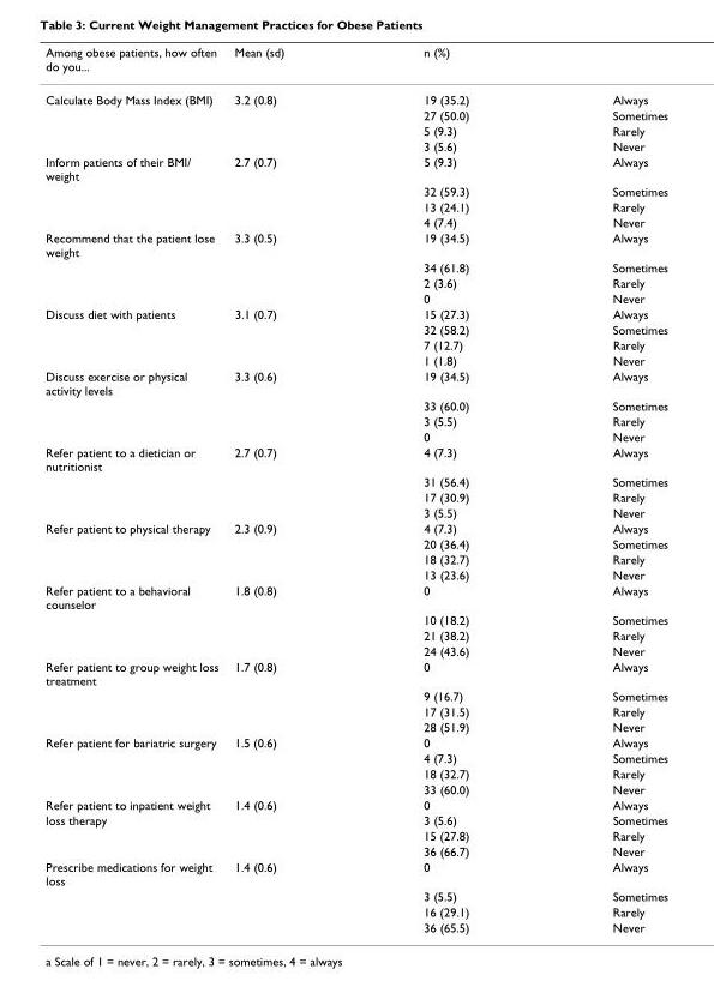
<table><thead><tr><td>Among obese patients, how often do you...</td><td>Mean (sd)</td><td>n (%)</td><td></td></tr></thead><tbody><tr><td rowspan="4">Calculate Body Mass Index (BMI)</td><td>3.2 (0.8)</td><td>19 (35.2)</td><td>Always</td></tr><tr><td></td><td>27 (50.0)</td><td>Sometimes</td></tr><tr><td></td><td>5 (9.3)</td><td>Rarely</td></tr><tr><td></td><td>3 (5.6)</td><td>Never</td></tr><tr><td rowspan="4">Inform patients of their BMI/ weight</td><td>2.7 (0.7)</td><td>5 (9.3)</td><td>Always</td></tr><tr><td></td><td>32 (59.3)</td><td>Sometimes</td></tr><tr><td></td><td>13 (24.1)</td><td>Rarely</td></tr><tr><td></td><td>4 (7.4)</td><td>Never</td></tr><tr><td rowspan="4">Recommend that the patient lose weight</td><td>3.3 (0.5)</td><td>19 (34.5)</td><td>Always</td></tr><tr><td></td><td>34 (61.8)</td><td>Sometimes</td></tr><tr><td></td><td>2 (3.6)</td><td>Rarely</td></tr><tr><td></td><td>0</td><td>Never</td></tr><tr><td rowspan="4">Discuss diet with patients</td><td>3.1 (0.7)</td><td>15 (27.3)</td><td>Always</td></tr><tr><td></td><td>32 (58.2)</td><td>Sometimes</td></tr><tr><td></td><td>7 (12.7)</td><td>Rarely</td></tr><tr><td></td><td>1 (1.8)</td><td>Never</td></tr><tr><td rowspan="4">Discuss exercise or physical activity levels</td><td>3.3 (0.6)</td><td>19 (34.5)</td><td>Always</td></tr><tr><td></td><td>33 (60.0)</td><td>Sometimes</td></tr><tr><td></td><td>3 (5.5)</td><td>Rarely</td></tr><tr><td></td><td>0</td><td>Never</td></tr><tr><td rowspan="4">Refer patient to a dietician or nutritionist</td><td>2.7 (0.7)</td><td>4 (7.3)</td><td>Always</td></tr><tr><td></td><td>31 (56.4)</td><td>Sometimes</td></tr><tr><td></td><td>17 (30.9)</td><td>Rarely</td></tr><tr><td></td><td>3 (5.5)</td><td>Never</td></tr><tr><td rowspan="4">Refer patient to physical therapy</td><td>2.3 (0.9)</td><td>4 (7.3)</td><td>Always</td></tr><tr><td></td><td>20 (36.4)</td><td>Sometimes</td></tr><tr><td></td><td>18 (32.7)</td><td>Rarely</td></tr><tr><td></td><td>13 (23.6)</td><td>Never</td></tr><tr><td rowspan="4">Refer patient to a behavioral counselor</td><td>1.8 (0.8)</td><td>0</td><td>Always</td></tr><tr><td></td><td>10 (18.2)</td><td>Sometimes</td></tr><tr><td></td><td>21 (38.2)</td><td>Rarely</td></tr><tr><td></td><td>24 (43.6)</td><td>Never</td></tr><tr><td rowspan="4">Refer patient to group weight loss treatment</td><td>1.7 (0.8)</td><td>0</td><td>Always</td></tr><tr><td></td><td>9 (16.7)</td><td>Sometimes</td></tr><tr><td></td><td>17 (31.5)</td><td>Rarely</td></tr><tr><td></td><td>28 (51.9)</td><td>Never</td></tr><tr><td rowspan="4">Refer patient for bariatric surgery</td><td>1.5 (0.6)</td><td>0</td><td>Always</td></tr><tr><td></td><td>4 (7.3)</td><td>Sometimes</td></tr><tr><td></td><td>18 (32.7)</td><td>Rarely</td></tr><tr><td></td><td>33 (60.0)</td><td>Never</td></tr><tr><td>Refer patient to inpatient weight</td><td>1.4 (0.6)</td><td>0</td><td>Always</td></tr><tr><td rowspan="3">loss therapy</td><td></td><td>3 (5.6)</td><td>Sometimes</td></tr><tr><td></td><td>15 (27.8)</td><td>Rarely</td></tr><tr><td></td><td>36 (66.7)</td><td>Never</td></tr><tr><td rowspan="4">Prescribe medications for weight loss</td><td>1.4 (0.6)</td><td>0</td><td>Always</td></tr><tr><td></td><td>3 (5.5)</td><td>Sometimes</td></tr><tr><td></td><td>16 (29.1)</td><td>Rarely</td></tr><tr><td></td><td>36 (65.5)</td><td>Never</td></tr></tbody></table>